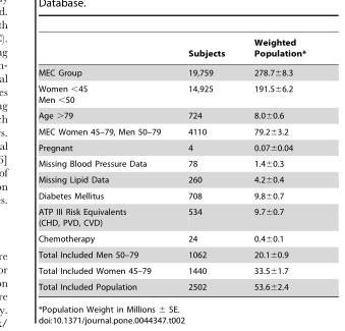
<table><thead><tr><td></td><td>Subjects</td><td>Weighted Population*</td></tr></thead><tbody><tr><td>MEC Group</td><td>19,759</td><td>278.7±8.3</td></tr><tr><td>Women &lt;45 Men &lt;50</td><td>14,925</td><td>191.5±6.2</td></tr><tr><td>Age &gt;79</td><td>724</td><td>8.0±0.6</td></tr><tr><td>MEC Women 45–79, Men 50–79</td><td>4110</td><td>79.2±3.2</td></tr><tr><td>Pregnant</td><td>4</td><td>0.07±0.04</td></tr><tr><td>Missing Blood Pressure Data</td><td>78</td><td>1.4±0.3</td></tr><tr><td>Missing Lipid Data</td><td>260</td><td>4.2±0.4</td></tr><tr><td>Diabetes Mellitus</td><td>708</td><td>9.8±0.7</td></tr><tr><td>ATP III Risk Equivalents (CHD, PVD, CVD)</td><td>534</td><td>9.7±0.7</td></tr><tr><td>Chemotherapy</td><td>24</td><td>0.4±0.1</td></tr><tr><td>Total Included Men 50–79</td><td>1062</td><td>20.1±0.9</td></tr><tr><td>Total Included Women 45–79</td><td>1440</td><td>33.5±1.7</td></tr><tr><td>Total Included Population</td><td>2502</td><td>53.6±2.4</td></tr></tbody></table>